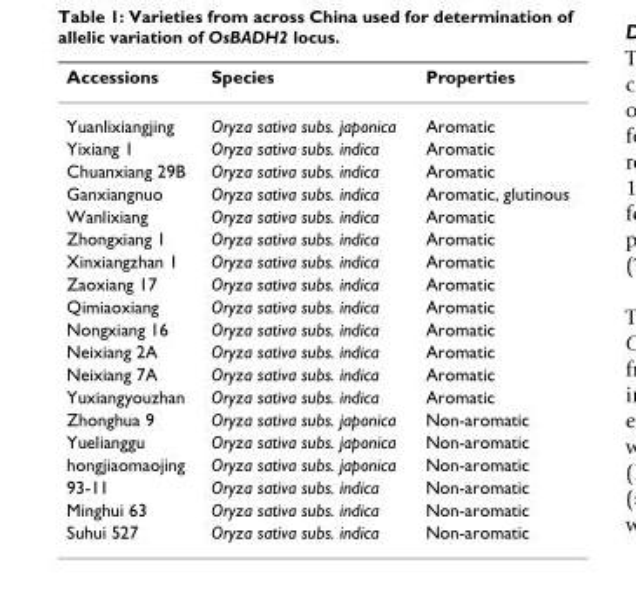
<table><thead><tr><td>Accessions</td><td>Species</td><td>Properties</td></tr></thead><tbody><tr><td>Yuanlixiangjing</td><td>Oryza sativa subs. japonica</td><td>Aromatic</td></tr><tr><td>Yixiang 1</td><td>Oryza sativa subs. indica</td><td>Aromatic</td></tr><tr><td>Chuanxiang 29B</td><td>Oryza sativa subs. indica</td><td>Aromatic</td></tr><tr><td>Ganxiangnuo</td><td>Oryza sativa subs. indica</td><td>Aromatic, glutinous</td></tr><tr><td>Wanlixiang</td><td>Oryza sativa subs. indica</td><td>Aromatic</td></tr><tr><td>Zhongxiang 1</td><td>Oryza sativa subs. indica</td><td>Aromatic</td></tr><tr><td>Xinxiangzhan 1</td><td>Oryza sativa subs. indica</td><td>Aromatic</td></tr><tr><td>Zaoxiang 17</td><td>Oryza sativa subs. indica</td><td>Aromatic</td></tr><tr><td>Qimiaoxiang</td><td>Oryza sativa subs. indica</td><td>Aromatic</td></tr><tr><td>Nongxiang 16</td><td>Oryza sativa subs. indica</td><td>Aromatic</td></tr><tr><td>Neixiang 2A</td><td>Oryza sativa subs. indica</td><td>Aromatic</td></tr><tr><td>Neixiang 7A</td><td>Oryza sativa subs. indica</td><td>Aromatic</td></tr><tr><td>Yuxiangyouzhan</td><td>Oryza sativa subs. indica</td><td>Aromatic</td></tr><tr><td>Zhonghua 9</td><td>Oryza sativa subs. japonica</td><td>Non-aromatic</td></tr><tr><td>Yuelianggu</td><td>Oryza sativa subs. japonica</td><td>Non-aromatic</td></tr><tr><td>hongjiaomaojing</td><td>Oryza sativa subs. japonica</td><td>Non-aromatic</td></tr><tr><td>93-11</td><td>Oryza sativa subs. indica</td><td>Non-aromatic</td></tr><tr><td>Minghui 63</td><td>Oryza sativa subs. indica</td><td>Non-aromatic</td></tr><tr><td>Suhui 527</td><td>Oryza sativa subs. indica</td><td>Non-aromatic</td></tr></tbody></table>